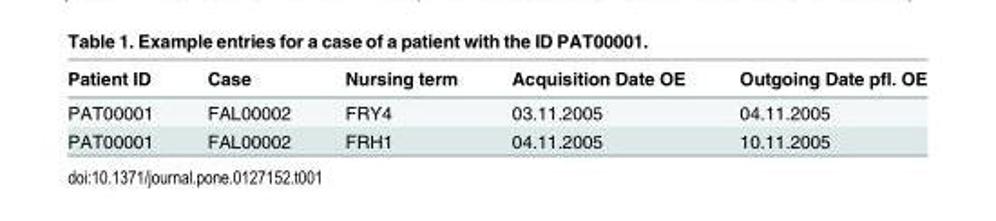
<table><thead><tr><td>Patient ID</td><td>Case</td><td>Nursing term</td><td>Acquisition Date OE</td><td>Outgoing Date pfl. OE</td></tr></thead><tbody><tr><td>PAT00001</td><td>FAL00002</td><td>FRY4</td><td>03.11.2005</td><td>04.11.2005</td></tr><tr><td>PAT00001</td><td>FAL00002</td><td>FRH1</td><td>04.11.2005</td><td>10.11.2005</td></tr></tbody></table>